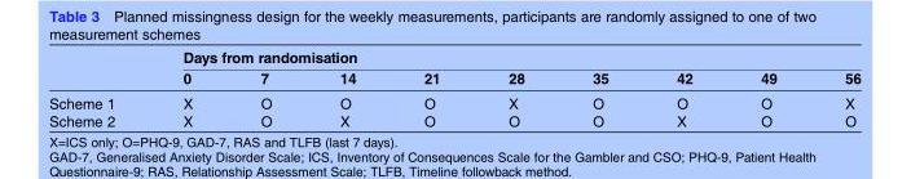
<table><thead><tr><td rowspan="2"></td><td colspan="9">Days from randomisation</td></tr><tr><td>0</td><td>7</td><td>14</td><td>21</td><td>28</td><td>35</td><td>42</td><td>49</td><td>56</td></tr></thead><tbody><tr><td>Scheme 1</td><td>X</td><td>O</td><td>O</td><td>O</td><td>X</td><td>O</td><td>O</td><td>O</td><td>X</td></tr><tr><td>Scheme 2</td><td>X</td><td>O</td><td>X</td><td>O</td><td>O</td><td>O</td><td>X</td><td>O</td><td>O</td></tr></tbody></table>